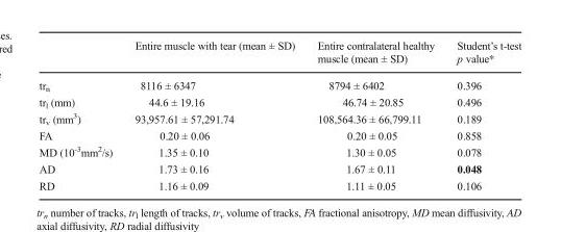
<table><thead><tr><td rowspan="2"></td><td rowspan="2">Entire muscle with tear (mean ± SD)</td><td rowspan="2">Entire contralateral healthy muscle (mean ± SD)</td><td rowspan="2">Student’s t-test p value*</td></tr><tr></tr></thead><tbody><tr><td>tr<sub>n</sub></td><td>8116 ± 6347</td><td>8794 ± 6402</td><td>0.396</td></tr><tr><td>tr<sub>l</sub> (mm)</td><td>44.6 ± 19.16</td><td>46.74 ± 20.85</td><td>0.496</td></tr><tr><td>tr<sub>v</sub> (mm<sup>3</sup>)</td><td>93,957.61 ± 57,291.74</td><td>108,564.36 ± 66,799.11</td><td>0.189</td></tr><tr><td>FA</td><td>0.20 ± 0.06</td><td>0.20 ± 0.05</td><td>0.858</td></tr><tr><td>MD (10<sup>-3</sup>mm<sup>2</sup>/s)</td><td>1.35 ± 0.10</td><td>1.30 ± 0.05</td><td>0.078</td></tr><tr><td>AD</td><td>1.73 ± 0.16</td><td>1.67 ± 0.11</td><td>0.048</td></tr><tr><td>RD</td><td>1.16 ± 0.09</td><td>1.11 ± 0.05</td><td>0.106</td></tr></tbody></table>